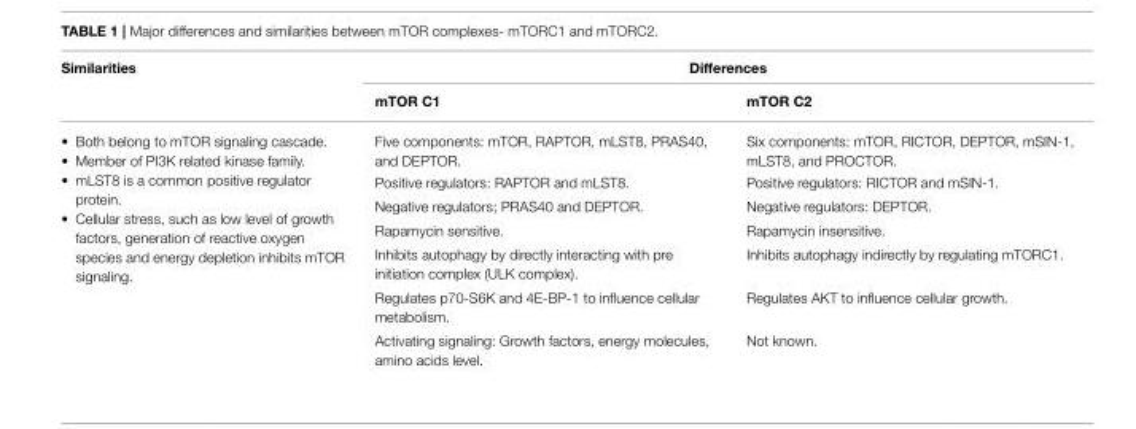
<table><thead><tr><td rowspan="2">Similarities</td><td colspan="2">Differences</td></tr><tr><td>mTOR C1</td><td>mTOR C2</td></tr></thead><tbody><tr><td rowspan="7">• Both belong to mTOR signaling cascade. • Member of PI3K related kinase family. • mLST8 is a common positive regulator protein. • Cellular stress, such as low level of growth factors, generation of reactive oxygen species and energy depletion inhibits mTOR signaling.</td><td>Five components: mTOR, RAPTOR, mLST8, PRAS40, and DEPTOR.</td><td>Six components: mTOR, RICTOR, DEPTOR, mSIN-1, mLST8, and PROCTOR.</td></tr><tr><td>Positive regulators: RAPTOR and mLST8.</td><td>Positive regulators: RICTOR and mSIN-1.</td></tr><tr><td>Negative regulators; PRAS40 and DEPTOR.</td><td>Negative regulators: DEPTOR.</td></tr><tr><td>Rapamycin sensitive.</td><td>Rapamycin insensitive.</td></tr><tr><td>Inhibits autophagy by directly interacting with pre initiation complex (ULK complex).</td><td>Inhibits autophagy indirectly by regulating mTORC1.</td></tr><tr><td>Regulates p70-S6K and 4E-BP-1 to influence cellular metabolism.</td><td>Regulates AKT to influence cellular growth.</td></tr><tr><td>Activating signaling: Growth factors, energy molecules, amino acids level.</td><td>Not known.</td></tr></tbody></table>